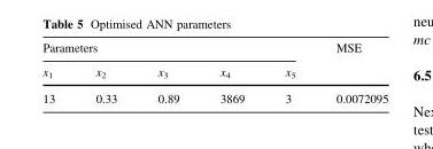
<table><thead><tr><td colspan="5">Parameters</td><td rowspan="2">MSE</td></tr><tr><td>x<sub>1</sub></td><td>x<sub>2</sub></td><td>x<sub>3</sub></td><td>x<sub>4</sub></td><td>x<sub>5</sub></td></tr></thead><tbody><tr><td>13</td><td>0.33</td><td>0.89</td><td>3869</td><td>3</td><td>0.0072095</td></tr></tbody></table>